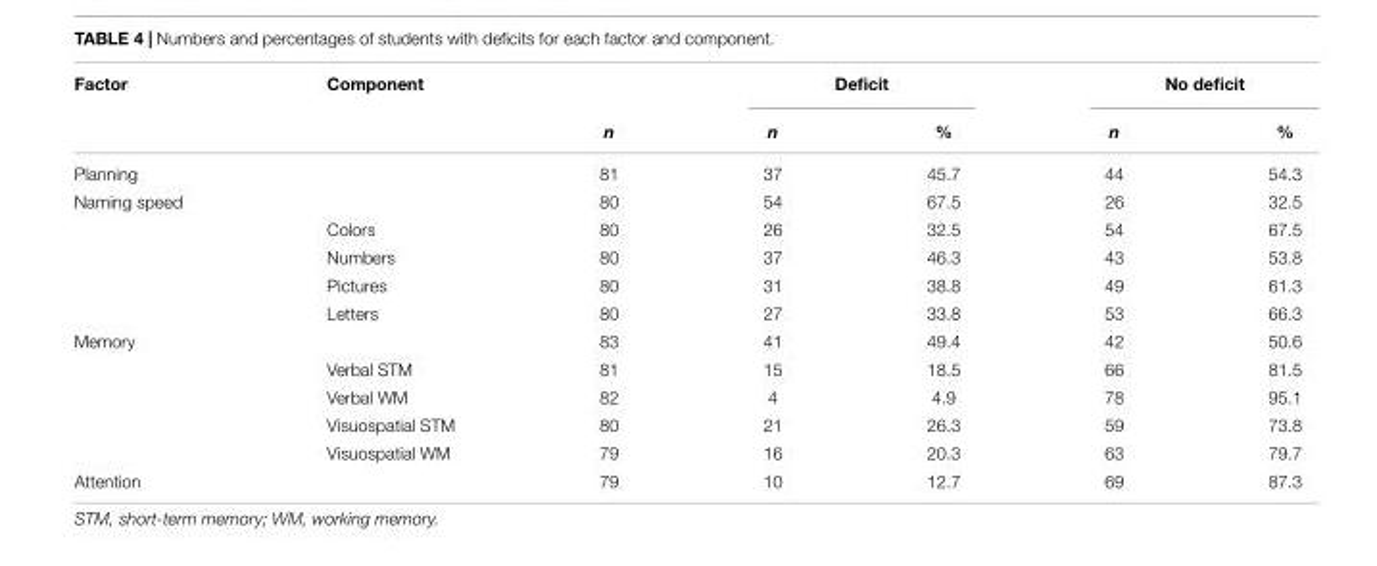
<table><thead><tr><td rowspan="2">Factor</td><td rowspan="2">Component</td><td rowspan="2">n</td><td colspan="2">Deficit</td><td colspan="2">No deficit</td></tr><tr><td>n</td><td>%</td><td>n</td><td>%</td></tr></thead><tbody><tr><td>Planning</td><td></td><td>81</td><td>37</td><td>45.7</td><td>44</td><td>54.3</td></tr><tr><td rowspan="5">Naming speed</td><td></td><td>80</td><td>54</td><td>67.5</td><td>26</td><td>32.5</td></tr><tr><td>Colors</td><td>80</td><td>26</td><td>32.5</td><td>54</td><td>67.5</td></tr><tr><td>Numbers</td><td>80</td><td>37</td><td>46.3</td><td>43</td><td>53.8</td></tr><tr><td>Pictures</td><td>80</td><td>31</td><td>38.8</td><td>49</td><td>61.3</td></tr><tr><td>Letters</td><td>80</td><td>27</td><td>33.8</td><td>53</td><td>66.3</td></tr><tr><td rowspan="5">Memory</td><td></td><td>83</td><td>41</td><td>49.4</td><td>42</td><td>50.6</td></tr><tr><td>Verbal STM</td><td>81</td><td>15</td><td>18.5</td><td>66</td><td>81.5</td></tr><tr><td>Verbal WM</td><td>82</td><td>4</td><td>4.9</td><td>78</td><td>95.1</td></tr><tr><td>Visuospatial STM</td><td>80</td><td>21</td><td>26.3</td><td>59</td><td>73.8</td></tr><tr><td>Visuospatial WM</td><td>79</td><td>16</td><td>20.3</td><td>63</td><td>79.7</td></tr><tr><td>Attention</td><td></td><td>79</td><td>10</td><td>12.7</td><td>69</td><td>87.3</td></tr></tbody></table>